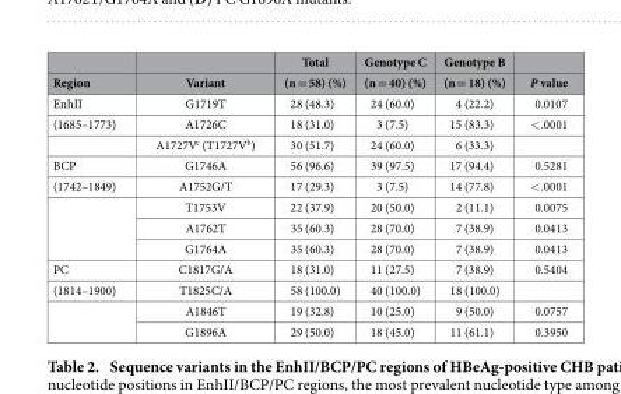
<table><thead><tr><td rowspan="2">Region</td><td rowspan="2">Variant</td><td rowspan="2">Total (n = 58) (%)</td><td rowspan="2">Genotype C (n = 40) (%)</td><td rowspan="2">Genotype B (n = 18) (%)</td><td rowspan="2">P value</td></tr><tr></tr></thead><tbody><tr><td>EnhII</td><td>G1719T</td><td>28 (48.3)</td><td>24 (60.0)</td><td>4 (22.2)</td><td>0.0107</td></tr><tr><td rowspan="2">(1685–1773)</td><td>A1726C</td><td>18 (31.0)</td><td>3 (7.5)</td><td>15 (83.3)</td><td>&lt; .0001</td></tr><tr><td>A1727V<sup>c</sup> (T1727V<sup>b</sup>)</td><td>30 (51.7)</td><td>24 (60.0)</td><td>6 (33.3)</td><td></td></tr><tr><td>BCP</td><td>G1746A</td><td>56 (96.6)</td><td>39 (97.5)</td><td>17 (94.4)</td><td>0.5281</td></tr><tr><td rowspan="4">(1742–1849)</td><td>A1752G/T</td><td>17 (29.3)</td><td>3 (7.5)</td><td>14 (77.8)</td><td>&lt; .0001</td></tr><tr><td>T1753V</td><td>22 (37.9)</td><td>20 (50.0)</td><td>2 (11.1)</td><td>0.0075</td></tr><tr><td>A1762T</td><td>35 (60.3)</td><td>28 (70.0)</td><td>7 (38.9)</td><td>0.0413</td></tr><tr><td>G1764A</td><td>35 (60.3)</td><td>28 (70.0)</td><td>7 (38.9)</td><td>0.0413</td></tr><tr><td>PC</td><td>C1817G/A</td><td>18 (31.0)</td><td>11 (27.5)</td><td>7 (38.9)</td><td>0.5404</td></tr><tr><td rowspan="3">(1814–1900)</td><td>T1825C/A</td><td>58 (100.0)</td><td>40 (100.0)</td><td>18 (100.0)</td><td></td></tr><tr><td>A1846T</td><td>19 (32.8)</td><td>10 (25.0)</td><td>9 (50.0)</td><td>0.0757</td></tr><tr><td>G1896A</td><td>29 (50.0)</td><td>18 (45.0)</td><td>11 (61.1)</td><td>0.3950</td></tr></tbody></table>